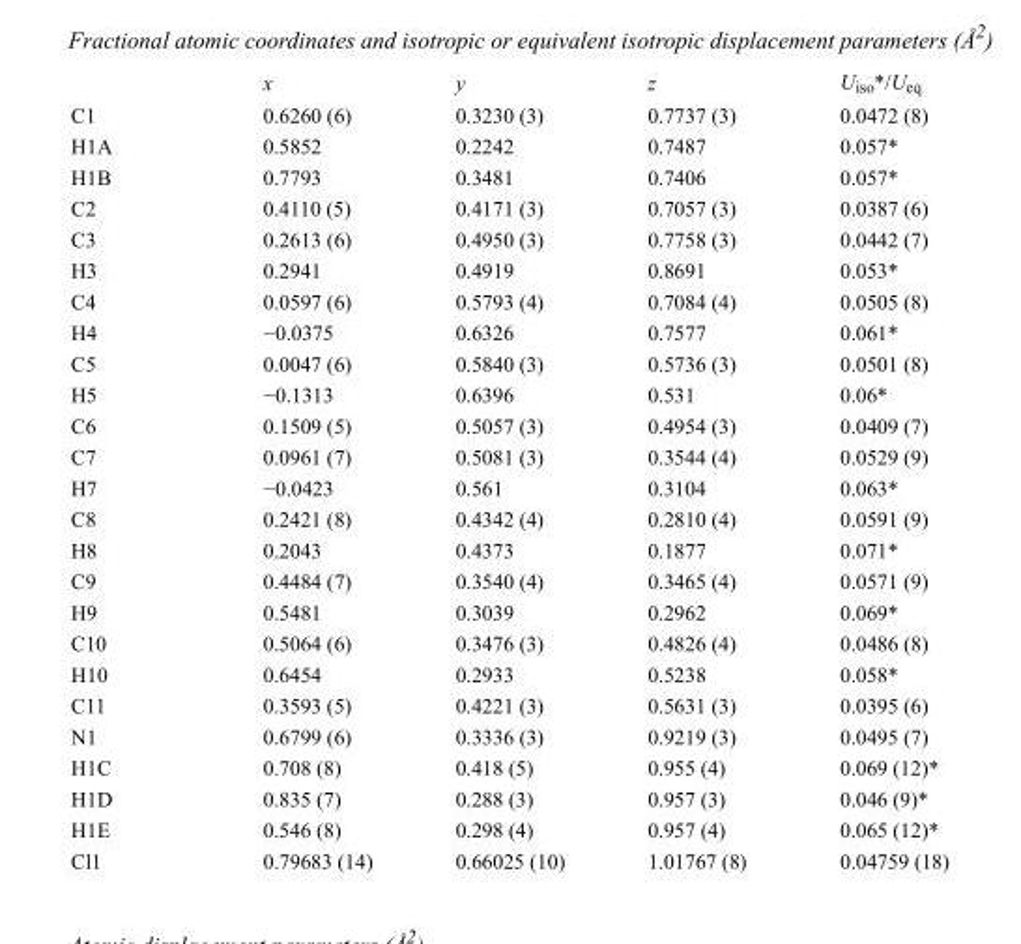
<table><thead><tr><td></td><td>x</td><td>y</td><td>z</td><td>U<sub>iso</sub>*/U<sub>eq</sub></td></tr></thead><tbody><tr><td>C1</td><td>0.6260 (6)</td><td>0.3230 (3)</td><td>0.7737 (3)</td><td>0.0472 (8)</td></tr><tr><td>H1A</td><td>0.5852</td><td>0.2242</td><td>0.7487</td><td>0.057*</td></tr><tr><td>H1B</td><td>0.7793</td><td>0.3481</td><td>0.7406</td><td>0.057*</td></tr><tr><td>C2</td><td>0.4110 (5)</td><td>0.4171 (3)</td><td>0.7057 (3)</td><td>0.0387 (6)</td></tr><tr><td>C3</td><td>0.2613 (6)</td><td>0.4950 (3)</td><td>0.7758 (3)</td><td>0.0442 (7)</td></tr><tr><td>H3</td><td>0.2941</td><td>0.4919</td><td>0.8691</td><td>0.053*</td></tr><tr><td>C4</td><td>0.0597 (6)</td><td>0.5793 (4)</td><td>0.7084 (4)</td><td>0.0505 (8)</td></tr><tr><td>H4</td><td>−0.0375</td><td>0.6326</td><td>0.7577</td><td>0.061*</td></tr><tr><td>C5</td><td>0.0047 (6)</td><td>0.5840 (3)</td><td>0.5736 (3)</td><td>0.0501 (8)</td></tr><tr><td>H5</td><td>−0.1313</td><td>0.6396</td><td>0.531</td><td>0.06*</td></tr><tr><td>C6</td><td>0.1509 (5)</td><td>0.5057 (3)</td><td>0.4954 (3)</td><td>0.0409 (7)</td></tr><tr><td>C7</td><td>0.0961 (7)</td><td>0.5081 (3)</td><td>0.3544 (4)</td><td>0.0529 (9)</td></tr><tr><td>H7</td><td>−0.0423</td><td>0.561</td><td>0.3104</td><td>0.063*</td></tr><tr><td>C8</td><td>0.2421 (8)</td><td>0.4342 (4)</td><td>0.2810 (4)</td><td>0.0591 (9)</td></tr><tr><td>H8</td><td>0.2043</td><td>0.4373</td><td>0.1877</td><td>0.071*</td></tr><tr><td>C9</td><td>0.4484 (7)</td><td>0.3540 (4)</td><td>0.3465 (4)</td><td>0.0571 (9)</td></tr><tr><td>H9</td><td>0.5481</td><td>0.3039</td><td>0.2962</td><td>0.069*</td></tr><tr><td>C10</td><td>0.5064 (6)</td><td>0.3476 (3)</td><td>0.4826 (4)</td><td>0.0486 (8)</td></tr><tr><td>H10</td><td>0.6454</td><td>0.2933</td><td>0.5238</td><td>0.058*</td></tr><tr><td>C11</td><td>0.3593 (5)</td><td>0.4221 (3)</td><td>0.5631 (3)</td><td>0.0395 (6)</td></tr><tr><td>N1</td><td>0.6799 (6)</td><td>0.3336 (3)</td><td>0.9219 (3)</td><td>0.0495 (7)</td></tr><tr><td>H1C</td><td>0.708 (8)</td><td>0.418 (5)</td><td>0.955 (4)</td><td>0.069 (12)*</td></tr><tr><td>H1D</td><td>0.835 (7)</td><td>0.288 (3)</td><td>0.957 (3)</td><td>0.046 (9)*</td></tr><tr><td>H1E</td><td>0.546 (8)</td><td>0.298 (4)</td><td>0.957 (4)</td><td>0.065 (12)*</td></tr><tr><td>Cl1</td><td>0.79683 (14)</td><td>0.66025 (10)</td><td>1.01767 (8)</td><td>0.04759 (18)</td></tr></tbody></table>